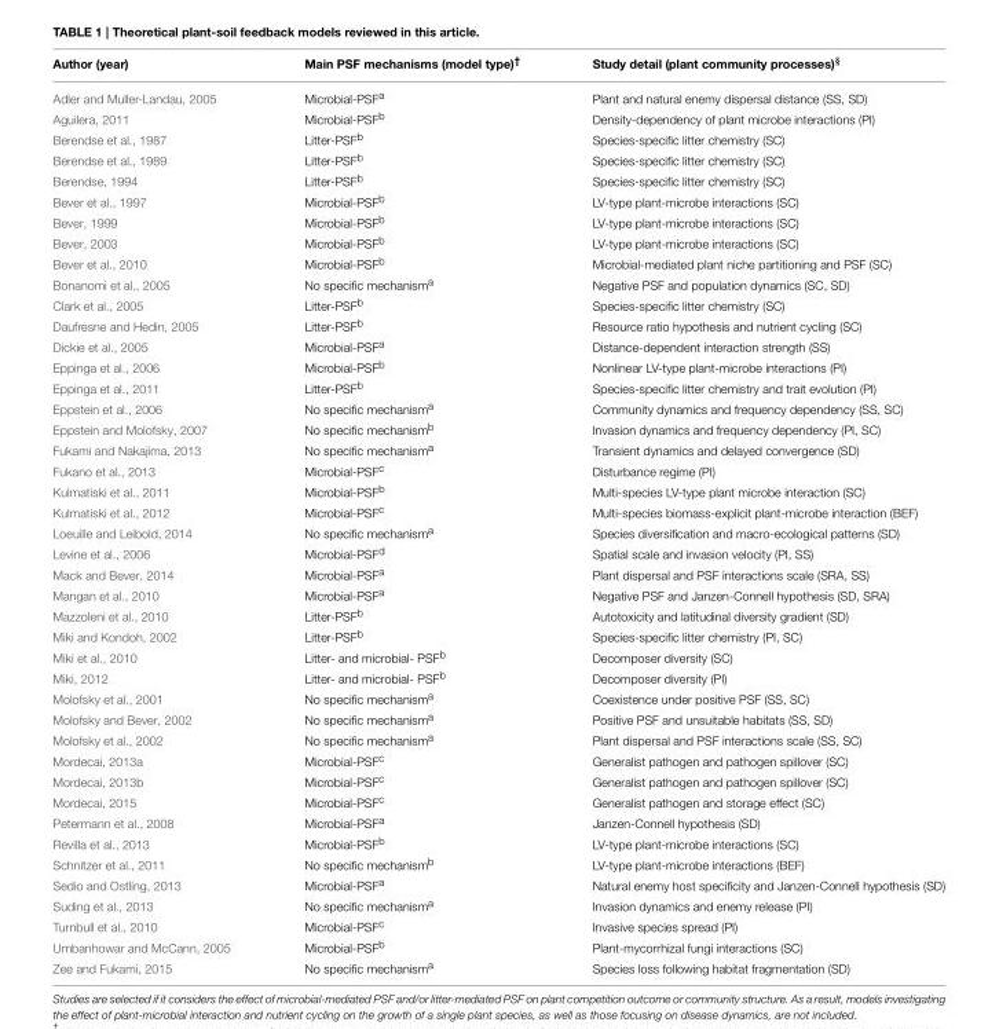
<table><thead><tr><td>Author (year)</td><td>Main PSF mechanisms (model type)<sup>†</sup></td><td>Study detail (plant community processes)<sup>§</sup></td></tr></thead><tbody><tr><td>Adler and Muller-Landau, 2005</td><td>Microbial-PSF<sup>a</sup></td><td>Plant and natural enemy dispersal distance (SS, SD)</td></tr><tr><td>Aguilera, 2011</td><td>Microbial-PSF<sup>b</sup></td><td>Density-dependency of plant microbe interactions (PI)</td></tr><tr><td>Berendse et al., 1987</td><td>Litter-PSF<sup>b</sup></td><td>Species-specific litter chemistry (SC)</td></tr><tr><td>Berendse et al., 1989</td><td>Litter-PSF<sup>b</sup></td><td>Species-specific litter chemistry (SC)</td></tr><tr><td>Berendse, 1994</td><td>Litter-PSF<sup>b</sup></td><td>Species-specific litter chemistry (SC)</td></tr><tr><td>Bever et al., 1997</td><td>Microbial-PSF<sup>b</sup></td><td>LV-type plant-microbe interactions (SC)</td></tr><tr><td>Bever, 1999</td><td>Microbial-PSF<sup>b</sup></td><td>LV-type plant-microbe interactions (SC)</td></tr><tr><td>Bever, 2003</td><td>Microbial-PSF<sup>b</sup></td><td>LV-type plant-microbe interactions (SC)</td></tr><tr><td>Bever et al., 2010</td><td>Microbial-PSF<sup>b</sup></td><td>Microbial-mediated plant niche partitioning and PSF (SC)</td></tr><tr><td>Bonanomi et al., 2005</td><td>No specific mechanism<sup>a</sup></td><td>Negative PSF and population dynamics (SC, SD)</td></tr><tr><td>Clark et al., 2005</td><td>Litter-PSF<sup>b</sup></td><td>Species-specific litter chemistry (SC)</td></tr><tr><td>Daufresne and Hedin, 2005</td><td>Litter-PSF<sup>b</sup></td><td>Resource ratio hypothesis and nutrient cycling (SC)</td></tr><tr><td>Dickie et al., 2005</td><td>Microbial-PSF<sup>a</sup></td><td>Distance-dependent interaction strength (SS)</td></tr><tr><td>Eppinga et al., 2006</td><td>Microbial-PSF<sup>b</sup></td><td>Nonlinear LV-type plant-microbe interactions (PI)</td></tr><tr><td>Eppinga et al., 2011</td><td>Litter-PSF<sup>b</sup></td><td>Species-specific litter chemistry and trait evolution (PI)</td></tr><tr><td>Eppstein et al., 2006</td><td>No specific mechanism<sup>a</sup></td><td>Community dynamics and frequency dependency (SS, SC)</td></tr><tr><td>Eppstein and Molofsky, 2007</td><td>No specific mechanism<sup>b</sup></td><td>Invasion dynamics and frequency dependency (PI, SC)</td></tr><tr><td>Fukami and Nakajima, 2013</td><td>No specific mechanism<sup>a</sup></td><td>Transient dynamics and delayed convergence (SD)</td></tr><tr><td>Fukano et al., 2013</td><td>Microbial-PSF<sup>c</sup></td><td>Disturbance regime (PI)</td></tr><tr><td>Kulmatiski et al., 2011</td><td>Microbial-PSF<sup>b</sup></td><td>Multi-species LV-type plant microbe interaction (SC)</td></tr><tr><td>Kulmatiski et al., 2012</td><td>Microbial-PSF<sup>c</sup></td><td>Multi-species biomass-explicit plant-microbe interaction (BEF)</td></tr><tr><td>Loeuille and Leibold, 2014</td><td>No specific mechanism<sup>a</sup></td><td>Species diversification and macro-ecological patterns (SD)</td></tr><tr><td>Levine et al., 2006</td><td>Microbial-PSF<sup>d</sup></td><td>Spatial scale and invasion velocity (PI, SS)</td></tr><tr><td>Mack and Bever, 2014</td><td>Microbial-PSF<sup>a</sup></td><td>Plant dispersal and PSF interactions scale (SRA, SS)</td></tr><tr><td>Mangan et al., 2010</td><td>Microbial-PSF<sup>a</sup></td><td>Negative PSF and Janzen-Connell hypothesis (SD, SRA)</td></tr><tr><td>Mazzoleni et al., 2010</td><td>Litter-PSF<sup>b</sup></td><td>Autotoxicity and latitudinal diversity gradient (SD)</td></tr><tr><td>Miki and Kondoh, 2002</td><td>Litter-PSF<sup>b</sup></td><td>Species-specific litter chemistry (PI, SC)</td></tr><tr><td>Miki et al., 2010</td><td>Litter- and microbial- PSF<sup>b</sup></td><td>Decomposer diversity (SC)</td></tr><tr><td>Miki, 2012</td><td>Litter- and microbial- PSF<sup>b</sup></td><td>Decomposer diversity (PI)</td></tr><tr><td>Molofsky et al., 2001</td><td>No specific mechanism<sup>a</sup></td><td>Coexistence under positive PSF (SS, SC)</td></tr><tr><td>Molofsky and Bever, 2002</td><td>No specific mechanism<sup>a</sup></td><td>Positive PSF and unsuitable habitats (SS, SD)</td></tr><tr><td>Molofsky et al., 2002</td><td>No specific mechanism<sup>a</sup></td><td>Plant dispersal and PSF interactions scale (SS, SC)</td></tr><tr><td>Mordecai, 2013a</td><td>Microbial-PSF<sup>c</sup></td><td>Generalist pathogen and pathogen spillover (SC)</td></tr><tr><td>Mordecai, 2013b</td><td>Microbial-PSF<sup>c</sup></td><td>Generalist pathogen and pathogen spillover (SC)</td></tr><tr><td>Mordecai, 2015</td><td>Microbial-PSF<sup>c</sup></td><td>Generalist pathogen and storage effect (SC)</td></tr><tr><td>Petermann et al., 2008</td><td>Microbial-PSF<sup>a</sup></td><td>Janzen-Connell hypothesis (SD)</td></tr><tr><td>Revilla et al., 2013</td><td>Microbial-PSF<sup>b</sup></td><td>LV-type plant-microbe interactions (SC)</td></tr><tr><td>Schnitzer et al., 2011</td><td>No specific mechanism<sup>b</sup></td><td>LV-type plant-microbe interactions (BEF)</td></tr><tr><td>Sedio and Ostling, 2013</td><td>Microbial-PSF<sup>a</sup></td><td>Natural enemy host specificity and Janzen-Connell hypothesis (SD)</td></tr><tr><td>Suding et al., 2013</td><td>No specific mechanism<sup>a</sup></td><td>Invasion dynamics and enemy release (PI)</td></tr><tr><td>Turnbull et al., 2010</td><td>Microbial-PSF<sup>c</sup></td><td>Invasive species spread (PI)</td></tr><tr><td>Umbanhowar and McCann, 2005</td><td>Microbial-PSF<sup>b</sup></td><td>Plant-mycorrhizal fungi interactions (SC)</td></tr><tr><td>Zee and Fukami, 2015</td><td>No specific mechanism<sup>a</sup></td><td>Species loss following habitat fragmentation (SD)</td></tr></tbody></table>